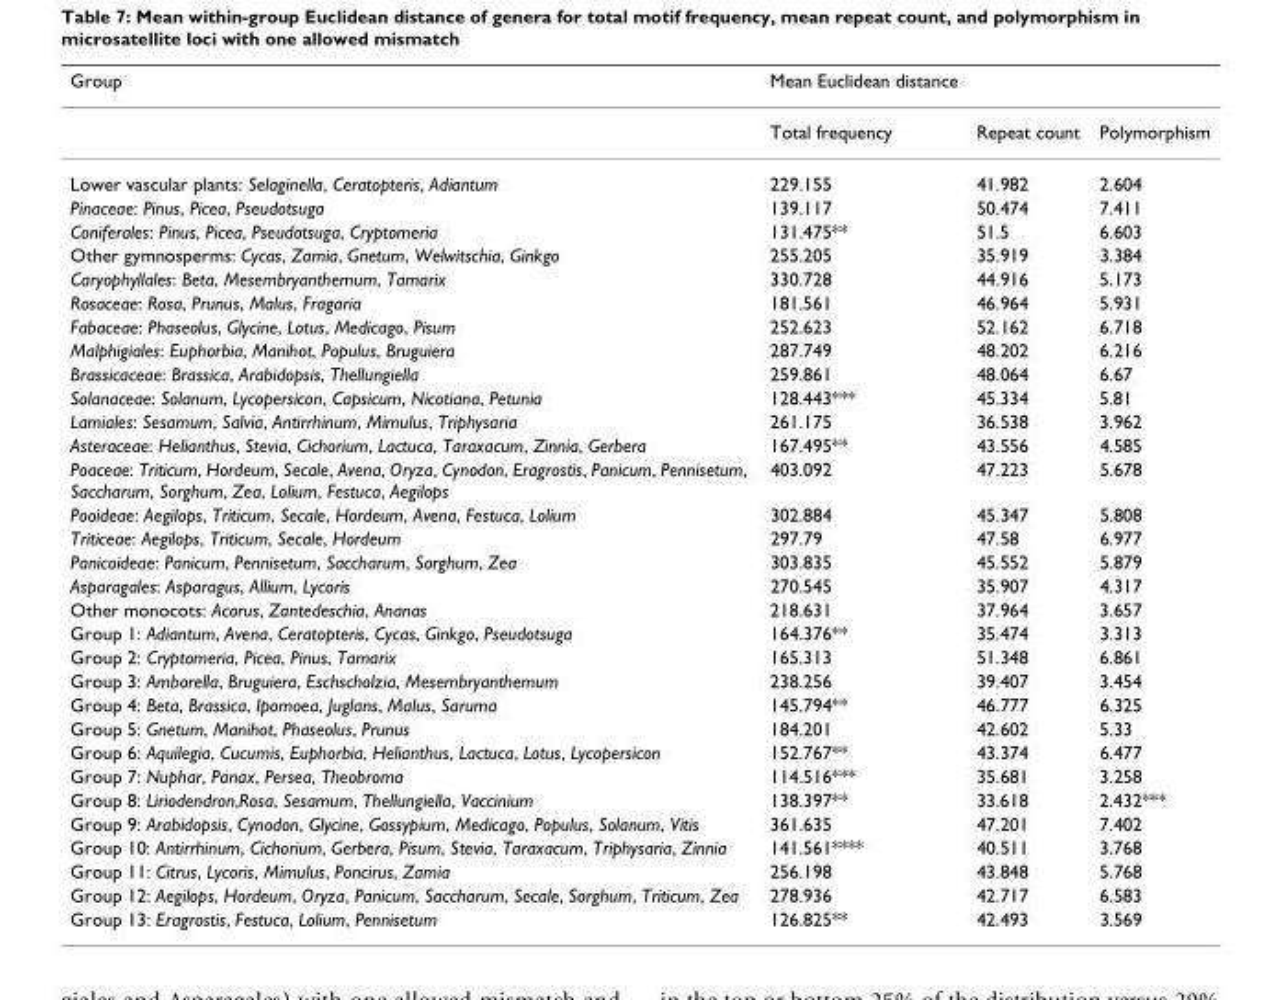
<table><thead><tr><td>Group</td><td>Mean Euclidean distance</td><td></td><td></td></tr></thead><tbody><tr><td></td><td>Total frequency</td><td>Repeat count</td><td>Polymorphism</td></tr><tr><td>Lower vascular plants: Selaginella, Ceratopteris, Adiantum</td><td>229.155</td><td>41.982</td><td>2.604</td></tr><tr><td>Pinaceae: Pinus, Picea, Pseudotsuga</td><td>139.117</td><td>50.474</td><td>7.411</td></tr><tr><td>Coniferales: Pinus, Picea, Pseudotsuga, Cryptomeria</td><td>131.475**</td><td>51.5</td><td>6.603</td></tr><tr><td>Other gymnosperms: Cycas, Zamia, Gnetum, Welwitschia, Ginkgo</td><td>255.205</td><td>35.919</td><td>3.384</td></tr><tr><td>Caryophyllales: Beta, Mesembryanthemum, Tamarix</td><td>330.728</td><td>44.916</td><td>5.173</td></tr><tr><td>Rosaceae: Rosa, Prunus, Malus, Fragaria</td><td>181.561</td><td>46.964</td><td>5.931</td></tr><tr><td>Fabaceae: Phaseolus, Glycine, Lotus, Medicago, Pisum</td><td>252.623</td><td>52.162</td><td>6.718</td></tr><tr><td>Malphigiales: Euphorbia, Manihot, Populus, Bruguiera</td><td>287.749</td><td>48.202</td><td>6.216</td></tr><tr><td>Brassicaceae: Brassica, Arabidopsis, Thellungiella</td><td>259.861</td><td>48.064</td><td>6.67</td></tr><tr><td>Solanaceae: Solanum, Lycopersicon, Capsicum, Nicotiana, Petunia</td><td>128.443***</td><td>45.334</td><td>5.81</td></tr><tr><td>Lamiales: Sesamum, Salvia, Antirrhinum, Mimulus, Triphysaria</td><td>261.175</td><td>36.538</td><td>3.962</td></tr><tr><td>Asteraceae: Helianthus, Stevia, Cichorium, Lactuca, Taraxacum, Zinnia, Gerbera</td><td>167.495**</td><td>43.556</td><td>4.585</td></tr><tr><td>Poaceae: Triticum, Hordeum, Secale, Avena, Oryza, Cynodon, Eragrostis, Panicum, Pennisetum, Saccharum, Sorghum, Zea, Lolium, Festuca, Aegilops</td><td>403.092</td><td>47.223</td><td>5.678</td></tr><tr><td>Pooideae: Aegilops, Triticum, Secale, Hordeum, Avena, Festuca, Lolium</td><td>302.884</td><td>45.347</td><td>5.808</td></tr><tr><td>Triticeae: Aegilops, Triticum, Secale, Hordeum</td><td>297.79</td><td>47.58</td><td>6.977</td></tr><tr><td>Panicoideae: Panicum, Pennisetum, Saccharum, Sorghum, Zea</td><td>303.835</td><td>45.552</td><td>5.879</td></tr><tr><td>Asparagales: Asparagus, Allium, Lycoris</td><td>270.545</td><td>35.907</td><td>4.317</td></tr><tr><td>Other monocots: Acorus, Zantedeschia, Ananas</td><td>218.631</td><td>37.964</td><td>3.657</td></tr><tr><td>Group 1: Adiantum, Avena, Ceratopteris, Cycas, Ginkgo, Pseudotsuga</td><td>164.376**</td><td>35.474</td><td>3.313</td></tr><tr><td>Group 2: Cryptomeria, Picea, Pinus, Tamarix</td><td>165.313</td><td>51.348</td><td>6.861</td></tr><tr><td>Group 3: Amborella, Bruguiera, Eschscholzia, Mesembryanthemum</td><td>238.256</td><td>39.407</td><td>3.454</td></tr><tr><td>Group 4: Beta, Brassica, Ipomoea, Juglans, Malus, Saruma</td><td>145.794**</td><td>46.777</td><td>6.325</td></tr><tr><td>Group 5: Gnetum, Manihot, Phaseolus, Prunus</td><td>184.201</td><td>42.602</td><td>5.33</td></tr><tr><td>Group 6: Aquilegia, Cucumis, Euphorbia, Helianthus, Lactuca, Lotus, Lycopersicon</td><td>152.767**</td><td>43.374</td><td>6.477</td></tr><tr><td>Group 7: Nuphar, Panax, Persea, Theobroma</td><td>114.516***</td><td>35.681</td><td>3.258</td></tr><tr><td>Group 8: Liriodendron,Rosa, Sesamum, Thellungiella, Vaccinium</td><td>138.397**</td><td>33.618</td><td>2.432***</td></tr><tr><td>Group 9: Arabidopsis, Cynodon, Glycine, Gossypium, Medicago, Populus, Solanum, Vitis</td><td>361.635</td><td>47.201</td><td>7.402</td></tr><tr><td>Group 10: Antirrhinum, Cichorium, Gerbera, Pisum, Stevia, Taraxacum, Triphysaria, Zinnia</td><td>141.561****</td><td>40.511</td><td>3.768</td></tr><tr><td>Group 11: Citrus, Lycoris, Mimulus, Poncirus, Zamia</td><td>256.198</td><td>43.848</td><td>5.768</td></tr><tr><td>Group 12: Aegilops, Hordeum, Oryza, Panicum, Saccharum, Secale, Sorghum, Triticum, Zea</td><td>278.936</td><td>42.717</td><td>6.583</td></tr><tr><td>Group 13: Eragrostis, Festuca, Lolium, Pennisetum</td><td>126.825**</td><td>42.493</td><td>3.569</td></tr></tbody></table>